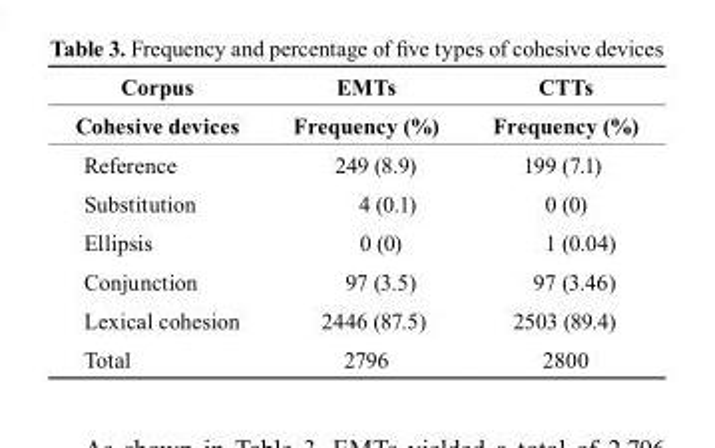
<table><thead><tr><td rowspan="2">corpus cohesive devices</td><td rowspan="2">EMts Frequency (%)</td><td rowspan="2">ctts Frequency (%)</td></tr><tr></tr></thead><tbody><tr><td>Reference</td><td>249 (8.9)</td><td>199 (7.1)</td></tr><tr><td>Substitution</td><td>4 (0.1)</td><td>0 (0)</td></tr><tr><td>Ellipsis</td><td>0 (0)</td><td>1 (0.04)</td></tr><tr><td>Conjunction</td><td>97 (3.5)</td><td>97 (3.46)</td></tr><tr><td>Lexical cohesion</td><td>2446 (87.5)</td><td>2503 (89.4)</td></tr><tr><td>Total</td><td>2796</td><td>2800</td></tr></tbody></table>